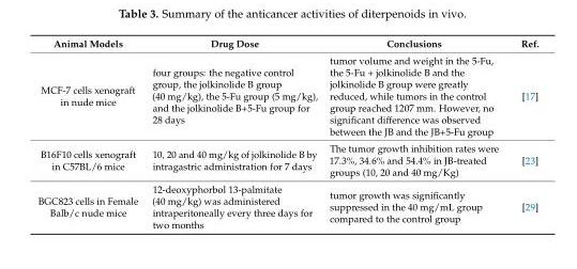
<table><thead><tr><td>Animal Models</td><td>Drug Dose</td><td>Conclusions</td><td>Ref.</td></tr></thead><tbody><tr><td>MCF-7 cells xenograft in nude mice</td><td>four groups: the negative control group, the jolkinolide B group (40 mg/kg), the 5-Fu group (5 mg/kg), and the jolkinolide B+5-Fu group for 28 days</td><td>tumor volume and weight in the 5-Fu, the 5-Fu + jolkinolide B and the jolkinolide B group were greatly reduced, while tumors in the control group reached 1207 mm. However, no significant difference was observed between the JB and the JB+5-Fu group</td><td>[17]</td></tr><tr><td>B16F10 cells xenograft in C57BL/6 mice</td><td>10, 20 and 40 mg/kg of jolkinolide B by intragastric administration for 7 days</td><td>The tumor growth inhibition rates were 17.3%, 34.6% and 54.4% in JB-treated groups (10, 20 and 40 mg/Kg)</td><td>[23]</td></tr><tr><td>BGC823 cells in Female Balb/c nude mice</td><td>12-deoxyphorbol 13-palmitate (40 mg/kg) was administered intraperitoneally every three days for two months</td><td>tumor growth was significantly suppressed in the 40 mg/mL group compared to the control group</td><td>[29]</td></tr></tbody></table>